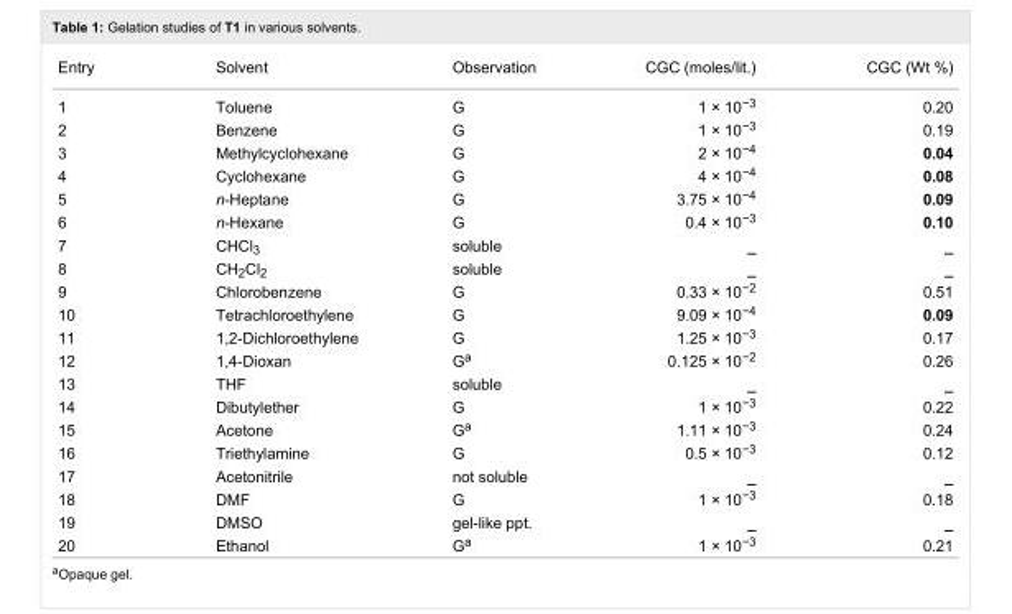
<table><tbody><tr><td>Entry</td><td>Solvent</td><td>Observation</td><td>CGC (moles/lit.)</td><td>CGC (Wt %)</td></tr><tr><td>1</td><td>Toluene</td><td>G</td><td>1 × 10<sup>−3</sup></td><td>0.20</td></tr><tr><td>2</td><td>Benzene</td><td>G</td><td>1 × 10<sup>−3</sup></td><td>0.19</td></tr><tr><td>3</td><td>Methylcyclohexane</td><td>G</td><td>2 × 10<sup>−4</sup></td><td>0.04</td></tr><tr><td>4</td><td>Cyclohexane</td><td>G</td><td>4 × 10<sup>−4</sup></td><td>0.08</td></tr><tr><td>5</td><td>n-Heptane</td><td>G</td><td>3.75 × 10<sup>−4</sup></td><td>0.09</td></tr><tr><td>6</td><td>n-Hexane</td><td>G</td><td>0.4 × 10<sup>−3</sup></td><td>0.10</td></tr><tr><td>7</td><td>CHCl<sub>3</sub></td><td>soluble</td><td>_</td><td>_</td></tr><tr><td>8</td><td>CH<sub>2</sub>Cl<sub>2</sub></td><td>soluble</td><td>_</td><td>_</td></tr><tr><td>9</td><td>Chlorobenzene</td><td>G</td><td>0.33 × 10<sup>−2</sup></td><td>0.51</td></tr><tr><td>10</td><td>Tetrachloroethylene</td><td>G</td><td>9.09 × 10<sup>−4</sup></td><td>0.09</td></tr><tr><td>11</td><td>1,2-Dichloroethylene</td><td>G</td><td>1.25 × 10<sup>−3</sup></td><td>0.17</td></tr><tr><td>12</td><td>1,4-Dioxan</td><td>G<sup>a</sup></td><td>0.125 × 10<sup>−2</sup></td><td>0.26</td></tr><tr><td>13</td><td>THF</td><td>soluble</td><td>_</td><td>_</td></tr><tr><td>14</td><td>Dibutylether</td><td>G</td><td>1 × 10<sup>−3</sup></td><td>0.22</td></tr><tr><td>15</td><td>Acetone</td><td>G<sup>a</sup></td><td>1.11 × 10<sup>−3</sup></td><td>0.24</td></tr><tr><td>16</td><td>Triethylamine</td><td>G</td><td>0.5 × 10<sup>−3</sup></td><td>0.12</td></tr><tr><td>17</td><td>Acetonitrile</td><td>not soluble</td><td>_</td><td>_</td></tr><tr><td>18</td><td>DMF</td><td>G</td><td>1 × 10<sup>−3</sup></td><td>0.18</td></tr><tr><td>19</td><td>DMSO</td><td>gel-like ppt.</td><td>_</td><td>_</td></tr><tr><td>20</td><td>Ethanol</td><td>G<sup>a</sup></td><td>1 × 10<sup>−3</sup></td><td>0.21</td></tr></tbody></table>